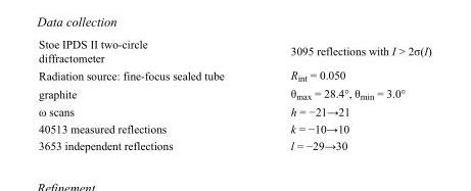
<table><tbody><tr><td>Stoe IPDS II two-circle diffractometer</td><td>3095 reflections with I &gt; 2σ(I)</td></tr><tr><td>Radiation source: fine-focus sealed tube</td><td>R<sub>int</sub> = 0.050</td></tr><tr><td>graphite</td><td>θ<sub>max</sub> = 28.4°, θ<sub>min</sub> = 3.0°</td></tr><tr><td>ω scans</td><td>h = −21→21</td></tr><tr><td>40513 measured reflections</td><td>k = −10→10</td></tr><tr><td>3653 independent reflections</td><td>l = −29→30</td></tr></tbody></table>